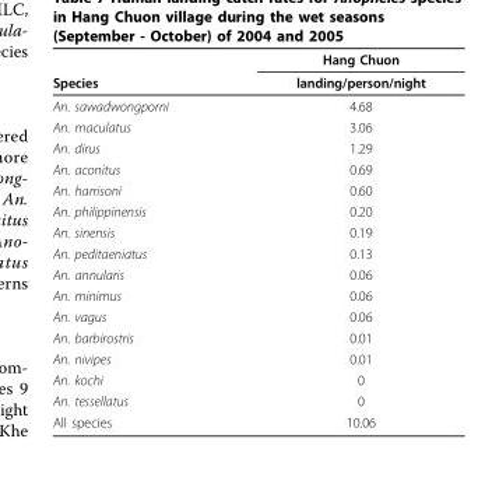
<table><thead><tr><td rowspan="2">Species</td><td rowspan="2">Hang Chuon landing/person/night</td></tr><tr></tr></thead><tbody><tr><td>An. sawadwongporni</td><td>4.68</td></tr><tr><td>An. maculatus</td><td>3.06</td></tr><tr><td>An. dirus</td><td>1.29</td></tr><tr><td>An. aconitus</td><td>0.69</td></tr><tr><td>An. harrisoni</td><td>0.60</td></tr><tr><td>An. philippinensis</td><td>0.20</td></tr><tr><td>An. sinensis</td><td>0.19</td></tr><tr><td>An. peditaeniatus</td><td>0.13</td></tr><tr><td>An. annularis</td><td>0.06</td></tr><tr><td>An. minimus</td><td>0.06</td></tr><tr><td>An. vagus</td><td>0.06</td></tr><tr><td>An. barbirostris</td><td>0.01</td></tr><tr><td>An. nivipes</td><td>0.01</td></tr><tr><td>An. kochi</td><td>0</td></tr><tr><td>An. tessellatus</td><td>0</td></tr><tr><td>All species</td><td>10.06</td></tr></tbody></table>